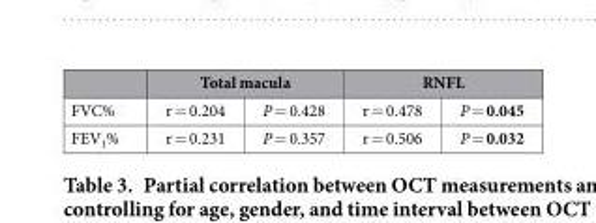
<table><thead><tr><td rowspan="2">FVC%</td><td colspan="2">Total macula</td><td colspan="2">RNFL</td></tr><tr><td>r = 0.204</td><td>P = 0.428</td><td>r = 0.478</td><td>P = 0.045</td></tr></thead><tbody><tr><td>FEV<sub>1</sub>%</td><td>r = 0.231</td><td>P = 0.357</td><td>r = 0.506</td><td>P = 0.032</td></tr></tbody></table>